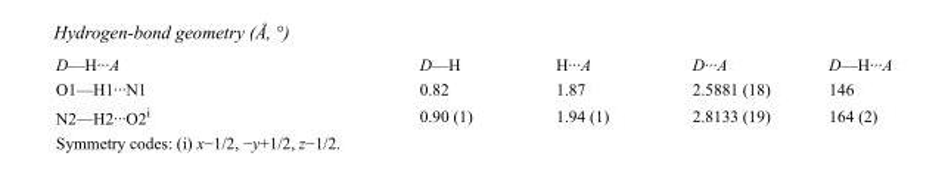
<table><tbody><tr><td>D—H···A</td><td>D—H</td><td>H···A</td><td>D···A</td><td>D—H···A</td></tr><tr><td>O1—H1···N1</td><td>0.82</td><td>1.87</td><td>2.5881 (18)</td><td>146</td></tr><tr><td>N2—H2···O2<sup>i</sup></td><td>0.90 (1)</td><td>1.94 (1)</td><td>2.8133 (19)</td><td>164 (2)</td></tr></tbody></table>